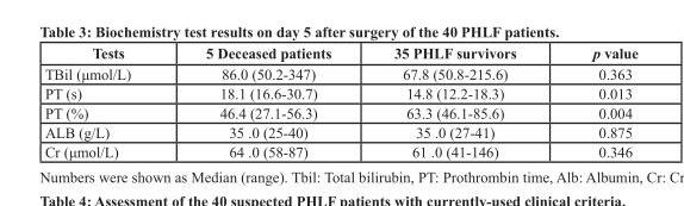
<table><thead><tr><td>Tests</td><td>5 Deceased patients</td><td>35 PHLF survivors</td><td>p value</td></tr></thead><tbody><tr><td>TBil (μmol/L)</td><td>86.0 (50.2-347)</td><td>67.8 (50.8-215.6)</td><td>0.363</td></tr><tr><td>PT (s)</td><td>18.1 (16.6-30.7)</td><td>14.8 (12.2-18.3)</td><td>0.013</td></tr><tr><td>PT (%)</td><td>46.4 (27.1-56.3)</td><td>63.3 (46.1-85.6)</td><td>0.004</td></tr><tr><td>ALB (g/L)</td><td>35 .0 (25-40)</td><td>35 .0 (27-41)</td><td>0.875</td></tr><tr><td>Cr (μmol/L)</td><td>64 .0 (58-87)</td><td>61 .0 (41-146)</td><td>0.346</td></tr></tbody></table>